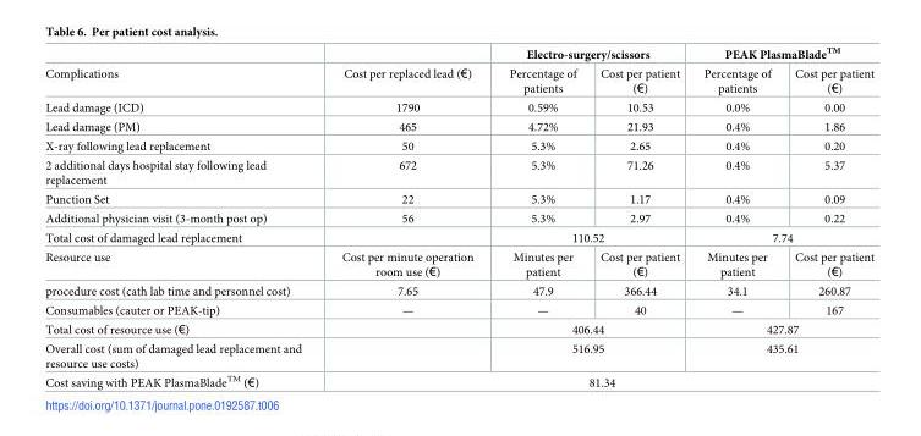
<table><thead><tr><td rowspan="2">Complications</td><td rowspan="2">Cost per replaced lead (€)</td><td colspan="2">Electro-surgery/scissors</td><td colspan="2">PEAK PlasmaBlade<sup>TM</sup></td></tr><tr><td>Percentage of patients</td><td>Cost per patient (€)</td><td>Percentage of patients</td><td>Cost per patient (€)</td></tr></thead><tbody><tr><td>Lead damage (ICD)</td><td>1790</td><td>0.59%</td><td>10.53</td><td>0.0%</td><td>0.00</td></tr><tr><td>Lead damage (PM)</td><td>465</td><td>4.72%</td><td>21.93</td><td>0.4%</td><td>1.86</td></tr><tr><td>X-ray following lead replacement</td><td>50</td><td>5.3%</td><td>2.65</td><td>0.4%</td><td>0.20</td></tr><tr><td>2 additional days hospital stay following lead replacement</td><td>672</td><td>5.3%</td><td>71.26</td><td>0.4%</td><td>5.37</td></tr><tr><td>Punction Set</td><td>22</td><td>5.3%</td><td>1.17</td><td>0.4%</td><td>0.09</td></tr><tr><td>Additional physician visit (3-month post op)</td><td>56</td><td>5.3%</td><td>2.97</td><td>0.4%</td><td>0.22</td></tr><tr><td>Total cost of damaged lead replacement</td><td></td><td colspan="2">110.52</td><td colspan="2">7.74</td></tr><tr><td>Resource use</td><td>Cost per minute operation room use (€)</td><td>Minutes per patient</td><td>Cost per patient (€)</td><td>Minutes per patient</td><td>Cost per patient (€)</td></tr><tr><td>procedure cost (cath lab time and personnel cost)</td><td>7.65</td><td>47.9</td><td>366.44</td><td>34.1</td><td>260.87</td></tr><tr><td>Consumables (cauter or PEAK-tip)</td><td>—</td><td>—</td><td>40</td><td>—</td><td>167</td></tr><tr><td>Total cost of resource use (€)</td><td></td><td colspan="2">406.44</td><td colspan="2">427.87</td></tr><tr><td>Overall cost (sum of damaged lead replacement and resource use costs)</td><td></td><td colspan="2">516.95</td><td colspan="2">435.61</td></tr><tr><td>Cost saving with PEAK PlasmaBlade<sup>TM</sup> (€)</td><td colspan="5">81.34</td></tr></tbody></table>